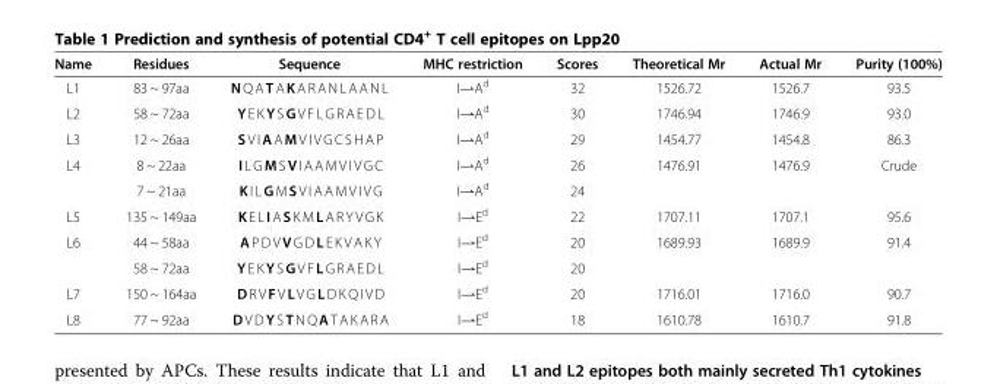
<table><thead><tr><td>Name</td><td>Residues</td><td>Sequence</td><td>MHC restriction</td><td>Scores</td><td>Theoretical Mr</td><td>Actual Mr</td><td>Purity (100%)</td></tr></thead><tbody><tr><td>L1</td><td>83 ~ 97aa</td><td>NQAT AK ARANLAA NL</td><td>I⇀A<sup>d</sup></td><td>32</td><td>1526.72</td><td>1526.7</td><td>93.5</td></tr><tr><td>L2</td><td>58 ~ 72aa</td><td>Y EKY S GV FL G R AEDL</td><td>I⇀A<sup>d</sup></td><td>30</td><td>1746.94</td><td>1746.9</td><td>93.0</td></tr><tr><td>L3</td><td>12 ~ 26aa</td><td>SVIA AMV IV GC SH AP</td><td>I⇀A<sup>d</sup></td><td>29</td><td>1454.77</td><td>1454.8</td><td>86.3</td></tr><tr><td rowspan="2">L4</td><td>8 ~ 22aa</td><td>I LG MS VI AAM VI VG C</td><td>I⇀A<sup>d</sup></td><td>26</td><td>1476.91</td><td>1476.9</td><td>Crude</td></tr><tr><td>7 ~ 21aa</td><td>K ILG MSV IA AMV IV G</td><td>I⇀A<sup>d</sup></td><td>24</td><td></td><td></td><td></td></tr><tr><td>L5</td><td>135 ~ 149aa</td><td>K E LI ASKM LARY VGK</td><td>I⇀E<sup>d</sup></td><td>22</td><td>1707.11</td><td>1707.1</td><td>95.6</td></tr><tr><td rowspan="2">L6</td><td>44 ~ 58aa</td><td>AP D VV G DLEKV AKY</td><td>I⇀E<sup>d</sup></td><td>20</td><td>1689.93</td><td>1689.9</td><td>91.4</td></tr><tr><td>58 ~ 72aa</td><td>Y EKY S GV FLGRAEDL</td><td>I⇀E<sup>d</sup></td><td>20</td><td></td><td></td><td></td></tr><tr><td>L7</td><td>150 ~ 164aa</td><td>DRV FV LVG LDKQIVD</td><td>I⇀E<sup>d</sup></td><td>20</td><td>1716.01</td><td>1716.0</td><td>90.7</td></tr><tr><td>L8</td><td>77 ~ 92aa</td><td>D VDY S TN QATAKARA</td><td>I⇀E<sup>d</sup></td><td>18</td><td>1610.78</td><td>1610.7</td><td>91.8</td></tr></tbody></table>